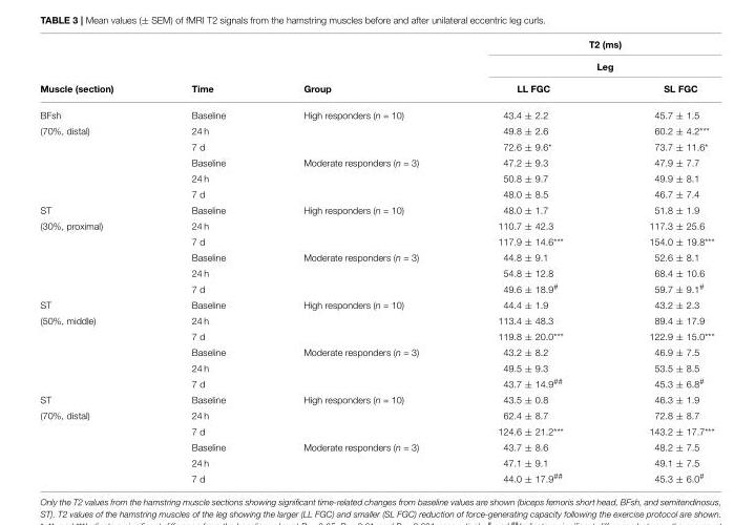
<table><thead><tr><td rowspan="3">Muscle (section)</td><td rowspan="3">Time</td><td rowspan="3">Group</td><td rowspan="2" colspan="2">T2 (ms) Leg</td></tr><tr></tr><tr><td>LL FGC</td><td>SL FGC</td></tr></thead><tbody><tr><td>BFsh</td><td>Baseline</td><td>High responders (n = 10)</td><td>43.4 ± 2.2</td><td>45.7 ± 1.5</td></tr><tr><td rowspan="5">(70%, distal)</td><td>24 h</td><td></td><td>49.8 ± 2.6</td><td>60.2 ± 4.2***</td></tr><tr><td>7 d</td><td></td><td>72.6 ± 9.6*</td><td>73.7 ± 11.6*</td></tr><tr><td>Baseline</td><td>Moderate responders (n = 3)</td><td>47.2 ± 9.3</td><td>47.9 ± 7.7</td></tr><tr><td>24 h</td><td></td><td>50.8 ± 9.7</td><td>49.9 ± 8.1</td></tr><tr><td>7 d</td><td></td><td>48.0 ± 8.5</td><td>46.7 ± 7.4</td></tr><tr><td>ST</td><td>Baseline</td><td>High responders (n = 10)</td><td>48.0 ± 1.7</td><td>51.8 ± 1.9</td></tr><tr><td rowspan="5">(30%, proximal)</td><td>24 h</td><td></td><td>110.7 ± 42.3</td><td>117.3 ± 25.6</td></tr><tr><td>7 d</td><td></td><td>117.9 ± 14.6***</td><td>154.0 ± 19.8***</td></tr><tr><td>Baseline</td><td>Moderate responders (n = 3)</td><td>44.8 ± 9.1</td><td>52.6 ± 8.1</td></tr><tr><td>24 h</td><td></td><td>54.8 ± 12.8</td><td>68.4 ± 10.6</td></tr><tr><td>7 d</td><td></td><td>49.6 ± 18.9<sup>#</sup></td><td>59.7 ± 9.1<sup>#</sup></td></tr><tr><td>ST</td><td>Baseline</td><td>High responders (n = 10)</td><td>44.4 ± 1.9</td><td>43.2 ± 2.3</td></tr><tr><td rowspan="5">(50%, middle)</td><td>24 h</td><td></td><td>113.4 ± 48.3</td><td>89.4 ± 17.9</td></tr><tr><td>7 d</td><td></td><td>119.8 ± 20.0***</td><td>122.9 ± 15.0***</td></tr><tr><td>Baseline</td><td>Moderate responders (n = 3)</td><td>43.2 ± 8.2</td><td>46.9 ± 7.5</td></tr><tr><td>24 h</td><td></td><td>49.5 ± 9.3</td><td>53.5 ± 8.5</td></tr><tr><td>7 d</td><td></td><td>43.7 ± 14.9<sup>##</sup></td><td>45.3 ± 6.8<sup>#</sup></td></tr><tr><td>ST</td><td>Baseline</td><td>High responders (n = 10)</td><td>43.5 ± 0.8</td><td>46.3 ± 1.9</td></tr><tr><td rowspan="5">(70%, distal)</td><td>24 h</td><td></td><td>62.4 ± 8.7</td><td>72.8 ± 8.7</td></tr><tr><td>7 d</td><td></td><td>124.6 ± 21.2***</td><td>143.2 ± 17.7***</td></tr><tr><td>Baseline</td><td>Moderate responders (n = 3)</td><td>43.7 ± 8.6</td><td>48.2 ± 7.5</td></tr><tr><td>24 h</td><td></td><td>47.1 ± 9.1</td><td>49.1 ± 7.5</td></tr><tr><td>7 d</td><td></td><td>44.0 ± 17.9<sup>##</sup></td><td>45.3 ± 6.0<sup>#</sup></td></tr></tbody></table>